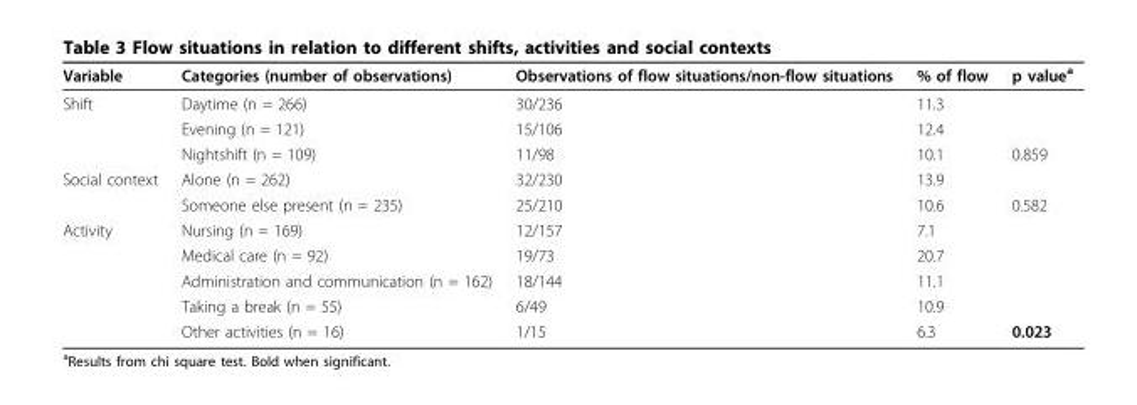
<table><thead><tr><td>Variable</td><td>Categories (number of observations)</td><td>Observations of flow situations/non-flow situations</td><td>% of flow</td><td>p value<sup>a</sup></td></tr></thead><tbody><tr><td rowspan="3">Shift</td><td>Daytime (n = 266)</td><td>30/236</td><td>11.3</td><td></td></tr><tr><td>Evening (n = 121)</td><td>15/106</td><td>12.4</td><td></td></tr><tr><td>Nightshift (n = 109)</td><td>11/98</td><td>10.1</td><td>0.859</td></tr><tr><td rowspan="2">Social context</td><td>Alone (n = 262)</td><td>32/230</td><td>13.9</td><td></td></tr><tr><td>Someone else present (n = 235)</td><td>25/210</td><td>10.6</td><td>0.582</td></tr><tr><td rowspan="5">Activity</td><td>Nursing (n = 169)</td><td>12/157</td><td>7.1</td><td></td></tr><tr><td>Medical care (n = 92)</td><td>19/73</td><td>20.7</td><td></td></tr><tr><td>Administration and communication (n = 162)</td><td>18/144</td><td>11.1</td><td></td></tr><tr><td>Taking a break (n = 55)</td><td>6/49</td><td>10.9</td><td></td></tr><tr><td>Other activities (n = 16)</td><td>1/15</td><td>6.3</td><td>0.023</td></tr></tbody></table>